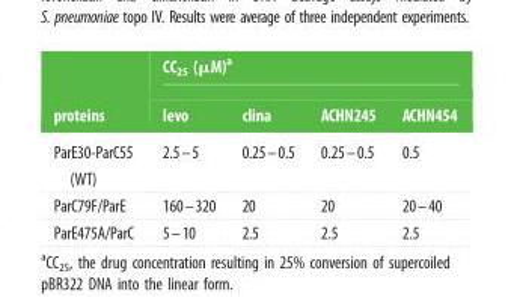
<table><thead><tr><td rowspan="2">proteins</td><td colspan="4">CC<sub>25</sub> (μM)<sup>a</sup></td></tr><tr><td>levo</td><td>clina</td><td>ACHN245</td><td>ACHN454</td></tr></thead><tbody><tr><td>ParE30-ParC55 (WT)</td><td>2.5–5</td><td>0.25–0.5</td><td>0.25–0.5</td><td>0.5</td></tr><tr><td>ParC79F/ParE</td><td>160–320</td><td>20</td><td>20</td><td>20–40</td></tr><tr><td>ParE475A/ParC</td><td>5–10</td><td>2.5</td><td>2.5</td><td>2.5</td></tr></tbody></table>